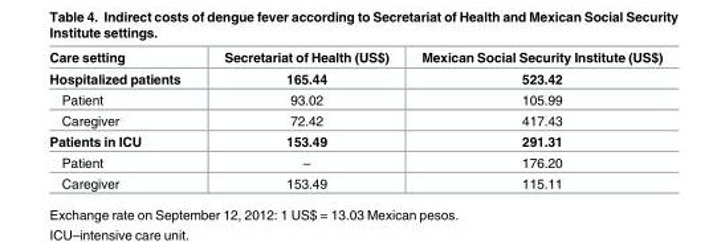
<table><thead><tr><td>Care setting</td><td>Secretariat of Health (US$)</td><td>Mexican Social Security Institute (US$)</td></tr></thead><tbody><tr><td>Hospitalized patients</td><td>165.44</td><td>523.42</td></tr><tr><td>Patient</td><td>93.02</td><td>105.99</td></tr><tr><td>Caregiver</td><td>72.42</td><td>417.43</td></tr><tr><td>Patients in ICU</td><td>153.49</td><td>291.31</td></tr><tr><td>Patient</td><td>–</td><td>176.20</td></tr><tr><td>Caregiver</td><td>153.49</td><td>115.11</td></tr></tbody></table>